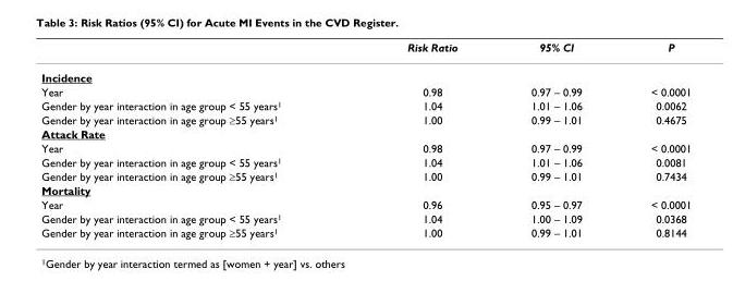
<table><thead><tr><td></td><td>Risk Ratio</td><td>95% CI</td><td>P</td></tr></thead><tbody><tr><td colspan="4">Incidence</td></tr><tr><td>Year</td><td>0.98</td><td>0.97 – 0.99</td><td>&lt; 0.0001</td></tr><tr><td>Gender by year interaction in age group &lt; 55 years<sup>1</sup></td><td>1.04</td><td>1.01 – 1.06</td><td>0.0062</td></tr><tr><td>Gender by year interaction in age group ≥55 years<sup>1</sup></td><td>1.00</td><td>0.99 – 1.01</td><td>0.4675</td></tr><tr><td colspan="4">Attack Rate</td></tr><tr><td>Year</td><td>0.98</td><td>0.97 – 0.99</td><td>&lt; 0.0001</td></tr><tr><td>Gender by year interaction in age group &lt; 55 years<sup>1</sup></td><td>1.04</td><td>1.01 – 1.06</td><td>0.0081</td></tr><tr><td>Gender by year interaction in age group ≥55 years<sup>1</sup></td><td>1.00</td><td>0.99 – 1.01</td><td>0.7434</td></tr><tr><td colspan="4">Mortality</td></tr><tr><td>Year</td><td>0.96</td><td>0.95 – 0.97</td><td>&lt; 0.0001</td></tr><tr><td>Gender by year interaction in age group &lt; 55 years<sup>1</sup></td><td>1.04</td><td>1.00 – 1.09</td><td>0.0368</td></tr><tr><td>Gender by year interaction in age group ≥55 years<sup>1</sup></td><td>1.00</td><td>0.99 – 1.01</td><td>0.8144</td></tr></tbody></table>